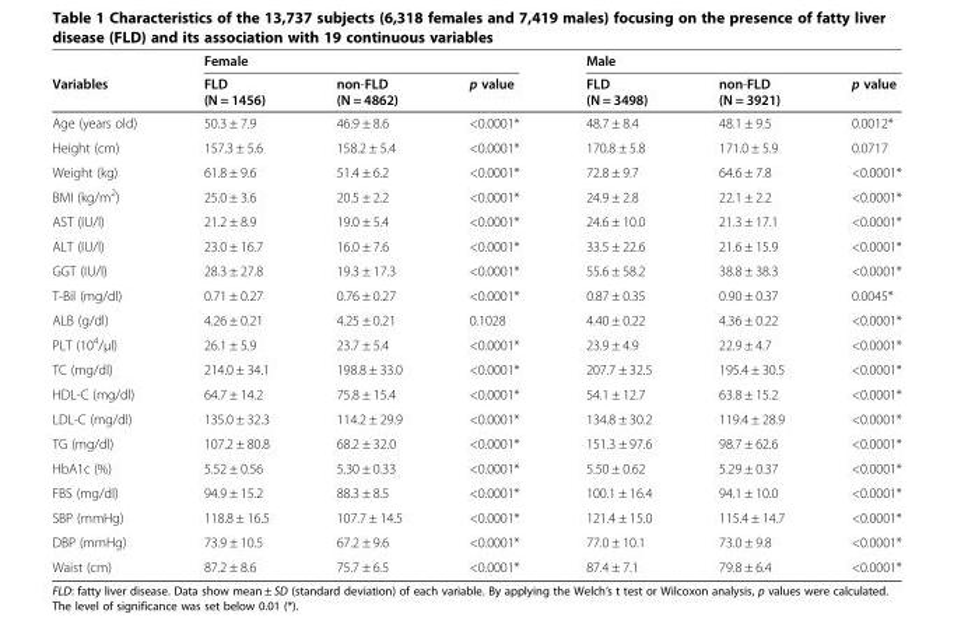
<table><thead><tr><td rowspan="2">Variables</td><td colspan="3">Female</td><td colspan="3">Male</td></tr><tr><td>FLD (N = 1456)</td><td>non-FLD (N = 4862)</td><td>p value</td><td>FLD (N = 3498)</td><td>non-FLD (N = 3921)</td><td>p value</td></tr></thead><tbody><tr><td>Age (years old)</td><td>50.3 ± 7.9</td><td>46.9 ± 8.6</td><td>&lt;0.0001*</td><td>48.7 ± 8.4</td><td>48.1 ± 9.5</td><td>0.0012*</td></tr><tr><td>Height (cm)</td><td>157.3 ± 5.6</td><td>158.2 ± 5.4</td><td>&lt;0.0001*</td><td>170.8 ± 5.8</td><td>171.0 ± 5.9</td><td>0.0717</td></tr><tr><td>Weight (kg)</td><td>61.8 ± 9.6</td><td>51.4 ± 6.2</td><td>&lt;0.0001*</td><td>72.8 ± 9.7</td><td>64.6 ± 7.8</td><td>&lt;0.0001*</td></tr><tr><td>BMI (kg/m<sup>2</sup>)</td><td>25.0 ± 3.6</td><td>20.5 ± 2.2</td><td>&lt;0.0001*</td><td>24.9 ± 2.8</td><td>22.1 ± 2.2</td><td>&lt;0.0001*</td></tr><tr><td>AST (IU/l)</td><td>21.2 ± 8.9</td><td>19.0 ± 5.4</td><td>&lt;0.0001*</td><td>24.6 ± 10.0</td><td>21.3 ± 17.1</td><td>&lt;0.0001*</td></tr><tr><td>ALT (IU/l)</td><td>23.0 ± 16.7</td><td>16.0 ± 7.6</td><td>&lt;0.0001*</td><td>33.5 ± 22.6</td><td>21.6 ± 15.9</td><td>&lt;0.0001*</td></tr><tr><td>GGT (IU/l)</td><td>28.3 ± 27.8</td><td>19.3 ± 17.3</td><td>&lt;0.0001*</td><td>55.6 ± 58.2</td><td>38.8 ± 38.3</td><td>&lt;0.0001*</td></tr><tr><td>T-Bil (mg/dl)</td><td>0.71 ± 0.27</td><td>0.76 ± 0.27</td><td>&lt;0.0001*</td><td>0.87 ± 0.35</td><td>0.90 ± 0.37</td><td>0.0045*</td></tr><tr><td>ALB (g/dl)</td><td>4.26 ± 0.21</td><td>4.25 ± 0.21</td><td>0.1028</td><td>4.40 ± 0.22</td><td>4.36 ± 0.22</td><td>&lt;0.0001*</td></tr><tr><td>PLT (10<sup>4</sup>/μl)</td><td>26.1 ± 5.9</td><td>23.7 ± 5.4</td><td>&lt;0.0001*</td><td>23.9 ± 4.9</td><td>22.9 ± 4.7</td><td>&lt;0.0001*</td></tr><tr><td>TC (mg/dl)</td><td>214.0 ± 34.1</td><td>198.8 ± 33.0</td><td>&lt;0.0001*</td><td>207.7 ± 32.5</td><td>195.4 ± 30.5</td><td>&lt;0.0001*</td></tr><tr><td>HDL-C (mg/dl)</td><td>64.7 ± 14.2</td><td>75.8 ± 15.4</td><td>&lt;0.0001*</td><td>54.1 ± 12.7</td><td>63.8 ± 15.2</td><td>&lt;0.0001*</td></tr><tr><td>LDL-C (mg/dl)</td><td>135.0 ± 32.3</td><td>114.2 ± 29.9</td><td>&lt;0.0001*</td><td>134.8 ± 30.2</td><td>119.4 ± 28.9</td><td>&lt;0.0001*</td></tr><tr><td>TG (mg/dl)</td><td>107.2 ± 80.8</td><td>68.2 ± 32.0</td><td>&lt;0.0001*</td><td>151.3 ± 97.6</td><td>98.7 ± 62.6</td><td>&lt;0.0001*</td></tr><tr><td>HbA1c (%)</td><td>5.52 ± 0.56</td><td>5.30 ± 0.33</td><td>&lt;0.0001*</td><td>5.50 ± 0.62</td><td>5.29 ± 0.37</td><td>&lt;0.0001*</td></tr><tr><td>FBS (mg/dl)</td><td>94.9 ± 15.2</td><td>88.3 ± 8.5</td><td>&lt;0.0001*</td><td>100.1 ± 16.4</td><td>94.1 ± 10.0</td><td>&lt;0.0001*</td></tr><tr><td>SBP (mmHg)</td><td>118.8 ± 16.5</td><td>107.7 ± 14.5</td><td>&lt;0.0001*</td><td>121.4 ± 15.0</td><td>115.4 ± 14.7</td><td>&lt;0.0001*</td></tr><tr><td>DBP (mmHg)</td><td>73.9 ± 10.5</td><td>67.2 ± 9.6</td><td>&lt;0.0001*</td><td>77.0 ± 10.1</td><td>73.0 ± 9.8</td><td>&lt;0.0001*</td></tr><tr><td>Waist (cm)</td><td>87.2 ± 8.6</td><td>75.7 ± 6.5</td><td>&lt;0.0001*</td><td>87.4 ± 7.1</td><td>79.8 ± 6.4</td><td>&lt;0.0001*</td></tr></tbody></table>